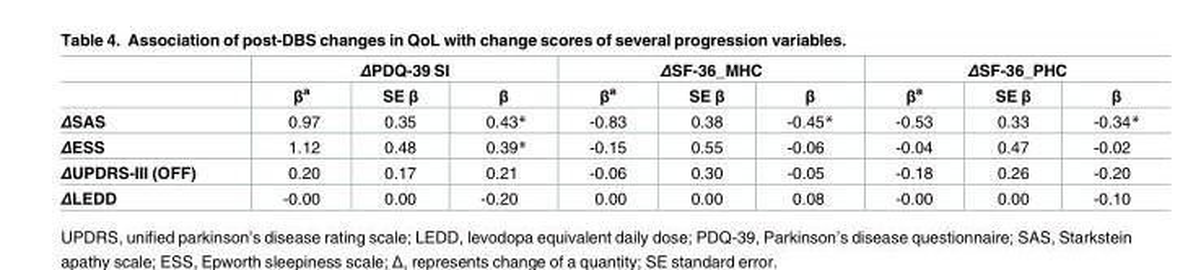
<table><thead><tr><td rowspan="2"></td><td colspan="3">ΔPDQ-39 SI</td><td colspan="3">ΔSF-36_MHC</td><td colspan="3">ΔSF-36_PHC</td></tr><tr><td>β<sup>a</sup></td><td>SE β</td><td>β</td><td>β<sup>a</sup></td><td>SE β</td><td>β</td><td>β<sup>a</sup></td><td>SE β</td><td>β</td></tr></thead><tbody><tr><td>ΔSAS</td><td>0.97</td><td>0.35</td><td>0.43*</td><td>-0.83</td><td>0.38</td><td>-0.45*</td><td>-0.53</td><td>0.33</td><td>-0.34*</td></tr><tr><td>ΔESS</td><td>1.12</td><td>0.48</td><td>0.39*</td><td>-0.15</td><td>0.55</td><td>-0.06</td><td>-0.04</td><td>0.47</td><td>-0.02</td></tr><tr><td>ΔUPDRS-III (OFF)</td><td>0.20</td><td>0.17</td><td>0.21</td><td>-0.06</td><td>0.30</td><td>-0.05</td><td>-0.18</td><td>0.26</td><td>-0.20</td></tr><tr><td>ΔLEDD</td><td>-0.00</td><td>0.00</td><td>-0.20</td><td>0.00</td><td>0.00</td><td>0.08</td><td>-0.00</td><td>0.00</td><td>-0.10</td></tr></tbody></table>